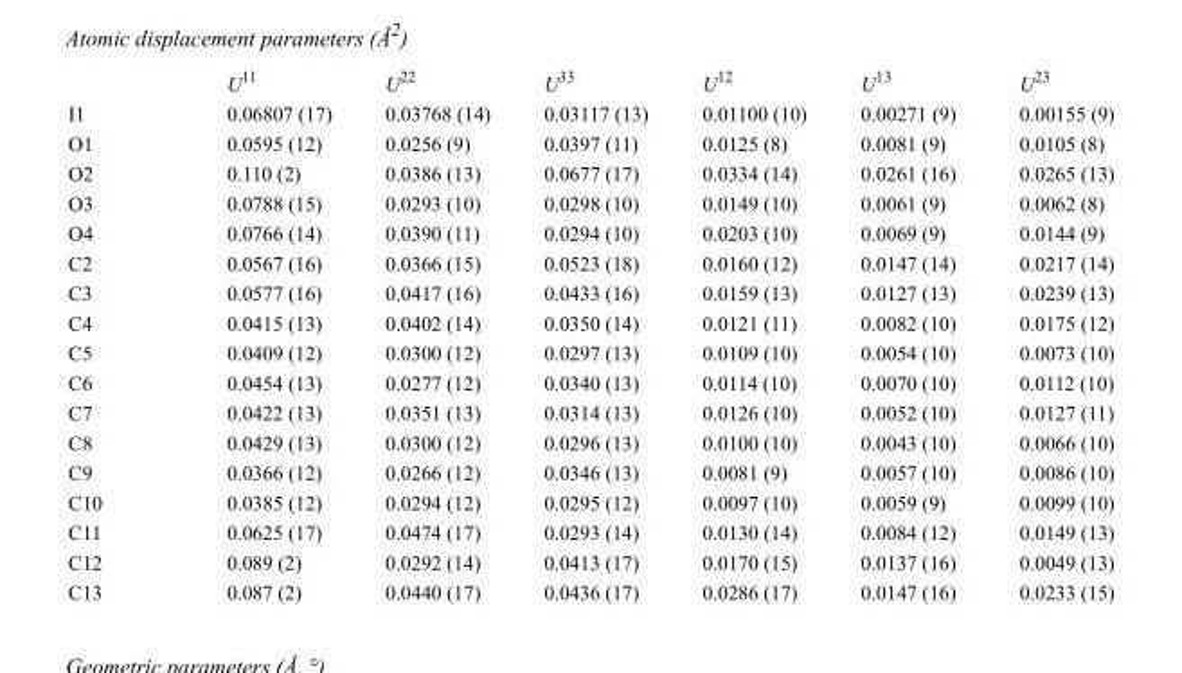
<table><thead><tr><td></td><td>U<sup>11</sup></td><td>U<sup>22</sup></td><td>U<sup>33</sup></td><td>U<sup>12</sup></td><td>U<sup>13</sup></td><td>U<sup>23</sup></td></tr></thead><tbody><tr><td>I1</td><td>0.06807 (17)</td><td>0.03768 (14)</td><td>0.03117 (13)</td><td>0.01100 (10)</td><td>0.00271 (9)</td><td>0.00155 (9)</td></tr><tr><td>O1</td><td>0.0595 (12)</td><td>0.0256 (9)</td><td>0.0397 (11)</td><td>0.0125 (8)</td><td>0.0081 (9)</td><td>0.0105 (8)</td></tr><tr><td>O2</td><td>0.110 (2)</td><td>0.0386 (13)</td><td>0.0677 (17)</td><td>0.0334 (14)</td><td>0.0261 (16)</td><td>0.0265 (13)</td></tr><tr><td>O3</td><td>0.0788 (15)</td><td>0.0293 (10)</td><td>0.0298 (10)</td><td>0.0149 (10)</td><td>0.0061 (9)</td><td>0.0062 (8)</td></tr><tr><td>O4</td><td>0.0766 (14)</td><td>0.0390 (11)</td><td>0.0294 (10)</td><td>0.0203 (10)</td><td>0.0069 (9)</td><td>0.0144 (9)</td></tr><tr><td>C2</td><td>0.0567 (16)</td><td>0.0366 (15)</td><td>0.0523 (18)</td><td>0.0160 (12)</td><td>0.0147 (14)</td><td>0.0217 (14)</td></tr><tr><td>C3</td><td>0.0577 (16)</td><td>0.0417 (16)</td><td>0.0433 (16)</td><td>0.0159 (13)</td><td>0.0127 (13)</td><td>0.0239 (13)</td></tr><tr><td>C4</td><td>0.0415 (13)</td><td>0.0402 (14)</td><td>0.0350 (14)</td><td>0.0121 (11)</td><td>0.0082 (10)</td><td>0.0175 (12)</td></tr><tr><td>C5</td><td>0.0409 (12)</td><td>0.0300 (12)</td><td>0.0297 (13)</td><td>0.0109 (10)</td><td>0.0054 (10)</td><td>0.0073 (10)</td></tr><tr><td>C6</td><td>0.0454 (13)</td><td>0.0277 (12)</td><td>0.0340 (13)</td><td>0.0114 (10)</td><td>0.0070 (10)</td><td>0.0112 (10)</td></tr><tr><td>C7</td><td>0.0422 (13)</td><td>0.0351 (13)</td><td>0.0314 (13)</td><td>0.0126 (10)</td><td>0.0052 (10)</td><td>0.0127 (11)</td></tr><tr><td>C8</td><td>0.0429 (13)</td><td>0.0300 (12)</td><td>0.0296 (13)</td><td>0.0100 (10)</td><td>0.0043 (10)</td><td>0.0066 (10)</td></tr><tr><td>C9</td><td>0.0366 (12)</td><td>0.0266 (12)</td><td>0.0346 (13)</td><td>0.0081 (9)</td><td>0.0057 (10)</td><td>0.0086 (10)</td></tr><tr><td>C10</td><td>0.0385 (12)</td><td>0.0294 (12)</td><td>0.0295 (12)</td><td>0.0097 (10)</td><td>0.0059 (9)</td><td>0.0099 (10)</td></tr><tr><td>C11</td><td>0.0625 (17)</td><td>0.0474 (17)</td><td>0.0293 (14)</td><td>0.0130 (14)</td><td>0.0084 (12)</td><td>0.0149 (13)</td></tr><tr><td>C12</td><td>0.089 (2)</td><td>0.0292 (14)</td><td>0.0413 (17)</td><td>0.0170 (15)</td><td>0.0137 (16)</td><td>0.0049 (13)</td></tr><tr><td>C13</td><td>0.087 (2)</td><td>0.0440 (17)</td><td>0.0436 (17)</td><td>0.0286 (17)</td><td>0.0147 (16)</td><td>0.0233 (15)</td></tr></tbody></table>